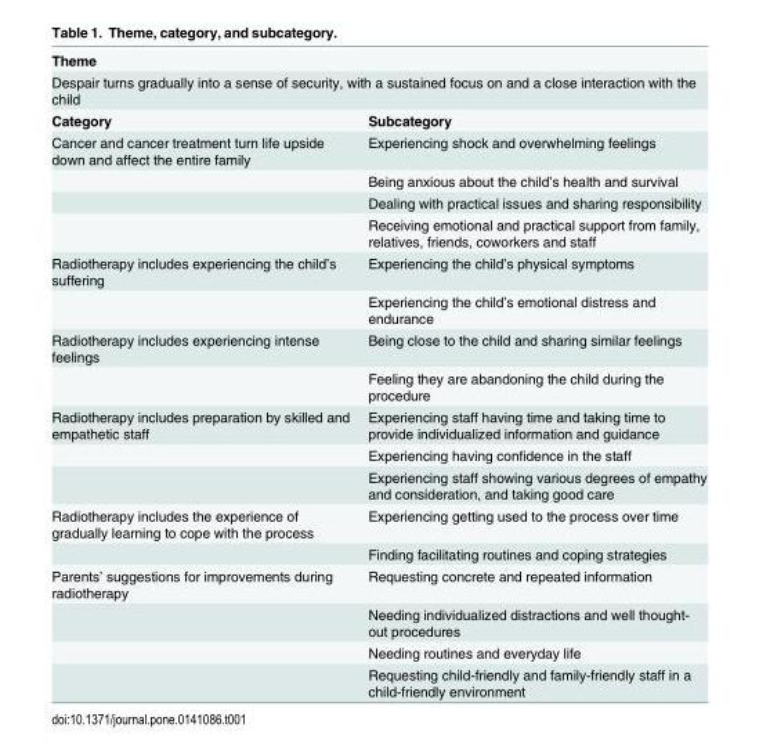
<table><tbody><tr><td colspan="2">Theme</td></tr><tr><td colspan="2">Despair turns gradually into a sense of security, with a sustained focus on and a close interaction with the child</td></tr><tr><td>Category</td><td>Subcategory</td></tr><tr><td rowspan="4">Cancer and cancer treatment turn life upside down and affect the entire family</td><td>Experiencing shock and overwhelming feelings</td></tr><tr><td>Being anxious about the child’s health and survival</td></tr><tr><td>Dealing with practical issues and sharing responsibility</td></tr><tr><td>Receiving emotional and practical support from family, relatives, friends, coworkers and staff</td></tr><tr><td rowspan="2">Radiotherapy includes experiencing the child’s suffering</td><td>Experiencing the child’s physical symptoms</td></tr><tr><td>Experiencing the child’s emotional distress and endurance</td></tr><tr><td rowspan="2">Radiotherapy includes experiencing intense feelings</td><td>Being close to the child and sharing similar feelings</td></tr><tr><td>Feeling they are abandoning the child during the procedure</td></tr><tr><td rowspan="3">Radiotherapy includes preparation by skilled and empathetic staff</td><td>Experiencing staff having time and taking time to provide individualized information and guidance</td></tr><tr><td>Experiencing having confidence in the staff</td></tr><tr><td>Experiencing staff showing various degrees of empathy and consideration, and taking good care</td></tr><tr><td rowspan="2">Radiotherapy includes the experience of gradually learning to cope with the process</td><td>Experiencing getting used to the process over time</td></tr><tr><td>Finding facilitating routines and coping strategies</td></tr><tr><td rowspan="4">Parents’ suggestions for improvements during radiotherapy</td><td>Requesting concrete and repeated information</td></tr><tr><td>Needing individualized distractions and well thought- out procedures</td></tr><tr><td>Needing routines and everyday life</td></tr><tr><td>Requesting child-friendly and family-friendly staff in a child-friendly environment</td></tr></tbody></table>